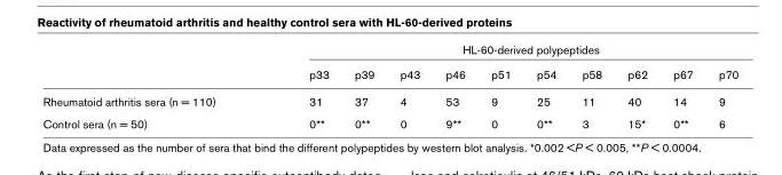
<table><thead><tr><td rowspan="2"></td><td colspan="10">HL-60-derived polypeptides</td></tr><tr><td>p33</td><td>p39</td><td>p43</td><td>p46</td><td>p51</td><td>p54</td><td>p58</td><td>p62</td><td>p67</td><td>p70</td></tr></thead><tbody><tr><td>Rheumatoid arthritis sera (n = 110)</td><td>31</td><td>37</td><td>4</td><td>53</td><td>9</td><td>25</td><td>11</td><td>40</td><td>14</td><td>9</td></tr><tr><td>Control sera (n = 50)</td><td>0**</td><td>0**</td><td>0</td><td>9**</td><td>0</td><td>0**</td><td>3</td><td>15*</td><td>0**</td><td>6</td></tr></tbody></table>